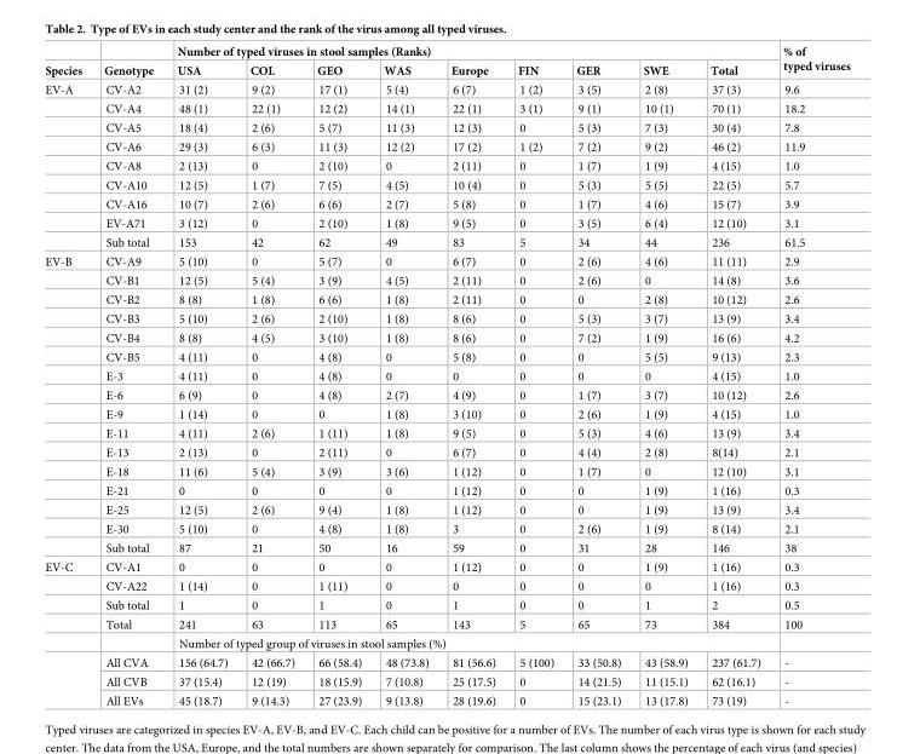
<table><thead><tr><td rowspan="2">Species</td><td rowspan="2">Genotype</td><td colspan="9">Number of typed viruses in stool samples (Ranks)</td><td rowspan="2">% of typed viruses</td></tr><tr><td>USA</td><td>COL</td><td>GEO</td><td>WAS</td><td>Europe</td><td>FIN</td><td>GER</td><td>SWE</td><td>Total</td></tr></thead><tbody><tr><td rowspan="9">EV-A</td><td>CV-A2</td><td>31 (2)</td><td>9 (2)</td><td>17 (1)</td><td>5 (4)</td><td>6 (7)</td><td>1 (2)</td><td>3 (5)</td><td>2 (8)</td><td>37 (3)</td><td>9.6</td></tr><tr><td>CV-A4</td><td>48 (1)</td><td>22 (1)</td><td>12 (2)</td><td>14 (1)</td><td>22 (1)</td><td>3 (1)</td><td>9 (1)</td><td>10 (1)</td><td>70 (1)</td><td>18.2</td></tr><tr><td>CV-A5</td><td>18 (4)</td><td>2 (6)</td><td>5 (7)</td><td>11 (3)</td><td>12 (3)</td><td>0</td><td>5 (3)</td><td>7 (3)</td><td>30 (4)</td><td>7.8</td></tr><tr><td>CV-A6</td><td>29 (3)</td><td>6 (3)</td><td>11 (3)</td><td>12 (2)</td><td>17 (2)</td><td>1 (2)</td><td>7 (2)</td><td>9 (2)</td><td>46 (2)</td><td>11.9</td></tr><tr><td>CV-A8</td><td>2 (13)</td><td>0</td><td>2 (10)</td><td>0</td><td>2 (11)</td><td>0</td><td>1 (7)</td><td>1 (9)</td><td>4 (15)</td><td>1.0</td></tr><tr><td>CV-A10</td><td>12 (5)</td><td>1 (7)</td><td>7 (5)</td><td>4 (5)</td><td>10 (4)</td><td>0</td><td>5 (3)</td><td>5 (5)</td><td>22 (5)</td><td>5.7</td></tr><tr><td>CV-A16</td><td>10 (7)</td><td>2 (6)</td><td>6 (6)</td><td>2 (7)</td><td>5 (8)</td><td>0</td><td>1 (7)</td><td>4 (6)</td><td>15 (7)</td><td>3.9</td></tr><tr><td>EV-A71</td><td>3 (12)</td><td>0</td><td>2 (10)</td><td>1 (8)</td><td>9 (5)</td><td>0</td><td>3 (5)</td><td>6 (4)</td><td>12 (10)</td><td>3.1</td></tr><tr><td>Sub total</td><td>153</td><td>42</td><td>62</td><td>49</td><td>83</td><td>5</td><td>34</td><td>44</td><td>236</td><td>61.5</td></tr><tr><td rowspan="16">EV-B</td><td>CV-A9</td><td>5 (10)</td><td>0</td><td>5 (7)</td><td>0</td><td>6 (7)</td><td>0</td><td>2 (6)</td><td>4 (6)</td><td>11 (11)</td><td>2.9</td></tr><tr><td>CV-B1</td><td>12 (5)</td><td>5 (4)</td><td>3 (9)</td><td>4 (5)</td><td>2 (11)</td><td>0</td><td>2 (6)</td><td>0</td><td>14 (8)</td><td>3.6</td></tr><tr><td>CV-B2</td><td>8 (8)</td><td>1 (8)</td><td>6 (6)</td><td>1 (8)</td><td>2 (11)</td><td>0</td><td>0</td><td>2 (8)</td><td>10 (12)</td><td>2.6</td></tr><tr><td>CV-B3</td><td>5 (10)</td><td>2 (6)</td><td>2 (10)</td><td>1 (8)</td><td>8 (6)</td><td>0</td><td>5 (3)</td><td>3 (7)</td><td>13 (9)</td><td>3.4</td></tr><tr><td>CV-B4</td><td>8 (8)</td><td>4 (5)</td><td>3 (10)</td><td>1 (8)</td><td>8 (6)</td><td>0</td><td>7 (2)</td><td>1 (9)</td><td>16 (6)</td><td>4.2</td></tr><tr><td>CV-B5</td><td>4 (11)</td><td>0</td><td>4 (8)</td><td>0</td><td>5 (8)</td><td>0</td><td>0</td><td>5 (5)</td><td>9 (13)</td><td>2.3</td></tr><tr><td>E-3</td><td>4 (11)</td><td>0</td><td>4 (8)</td><td>0</td><td>0</td><td>0</td><td>0</td><td>0</td><td>4 (15)</td><td>1.0</td></tr><tr><td>E-6</td><td>6 (9)</td><td>0</td><td>4 (8)</td><td>2 (7)</td><td>4 (9)</td><td>0</td><td>1 (7)</td><td>3 (7)</td><td>10 (12)</td><td>2.6</td></tr><tr><td>E-9</td><td>1 (14)</td><td>0</td><td>0</td><td>1 (8)</td><td>3 (10)</td><td>0</td><td>2 (6)</td><td>1 (9)</td><td>4 (15)</td><td>1.0</td></tr><tr><td>E-11</td><td>4 (11)</td><td>2 (6)</td><td>1 (11)</td><td>1 (8)</td><td>9 (5)</td><td>0</td><td>5 (3)</td><td>4 (6)</td><td>13 (9)</td><td>3.4</td></tr><tr><td>E-13</td><td>2 (13)</td><td>0</td><td>2 (11)</td><td>0</td><td>6 (7)</td><td>0</td><td>4 (4)</td><td>2 (8)</td><td>8(14)</td><td>2.1</td></tr><tr><td>E-18</td><td>11 (6)</td><td>5 (4)</td><td>3 (9)</td><td>3 (6)</td><td>1 (12)</td><td>0</td><td>1 (7)</td><td>0</td><td>12 (10)</td><td>3.1</td></tr><tr><td>E-21</td><td>0</td><td>0</td><td>0</td><td>0</td><td>1 (12)</td><td>0</td><td>0</td><td>1 (9)</td><td>1 (16)</td><td>0.3</td></tr><tr><td>E-25</td><td>12 (5)</td><td>2 (6)</td><td>9 (4)</td><td>1 (8)</td><td>1 (12)</td><td>0</td><td>0</td><td>1 (9)</td><td>13 (9)</td><td>3.4</td></tr><tr><td>E-30</td><td>5 (10)</td><td>0</td><td>4 (8)</td><td>1 (8)</td><td>3</td><td>0</td><td>2 (6)</td><td>1 (9)</td><td>8 (14)</td><td>2.1</td></tr><tr><td>Sub total</td><td>87</td><td>21</td><td>50</td><td>16</td><td>59</td><td>0</td><td>31</td><td>28</td><td>146</td><td>38</td></tr><tr><td rowspan="8">EV-C</td><td>CV-A1</td><td>0</td><td>0</td><td>0</td><td>0</td><td>1 (12)</td><td>0</td><td>0</td><td>1 (9)</td><td>1 (16)</td><td>0.3</td></tr><tr><td>CV-A22</td><td>1 (14)</td><td>0</td><td>1 (11)</td><td>0</td><td>0</td><td>0</td><td>0</td><td>0</td><td>1 (16)</td><td>0.3</td></tr><tr><td>Sub total</td><td>1</td><td>0</td><td>1</td><td>0</td><td>1</td><td>0</td><td>0</td><td>1</td><td>2</td><td>0.5</td></tr><tr><td>Total</td><td>241</td><td>63</td><td>113</td><td>65</td><td>143</td><td>5</td><td>65</td><td>73</td><td>384</td><td>100</td></tr><tr><td></td><td colspan="9">Number of typed group of viruses in stool samples (%)</td><td></td></tr><tr><td>All CVA</td><td>156 (64.7)</td><td>42 (66.7)</td><td>66 (58.4)</td><td>48 (73.8)</td><td>81 (56.6)</td><td>5 (100)</td><td>33 (50.8)</td><td>43 (58.9)</td><td>237 (61.7)</td><td>-</td></tr><tr><td>All CVB</td><td>37 (15.4)</td><td>12 (19)</td><td>18 (15.9)</td><td>7 (10.8)</td><td>25 (17.5)</td><td>0</td><td>14 (21.5)</td><td>11 (15.1)</td><td>62 (16.1)</td><td>-</td></tr><tr><td>All EVs</td><td>45 (18.7)</td><td>9 (14.3)</td><td>27 (23.9)</td><td>9 (13.8)</td><td>28 (19.6)</td><td>0</td><td>15 (23.1)</td><td>13 (17.8)</td><td>73 (19)</td><td>-</td></tr></tbody></table>